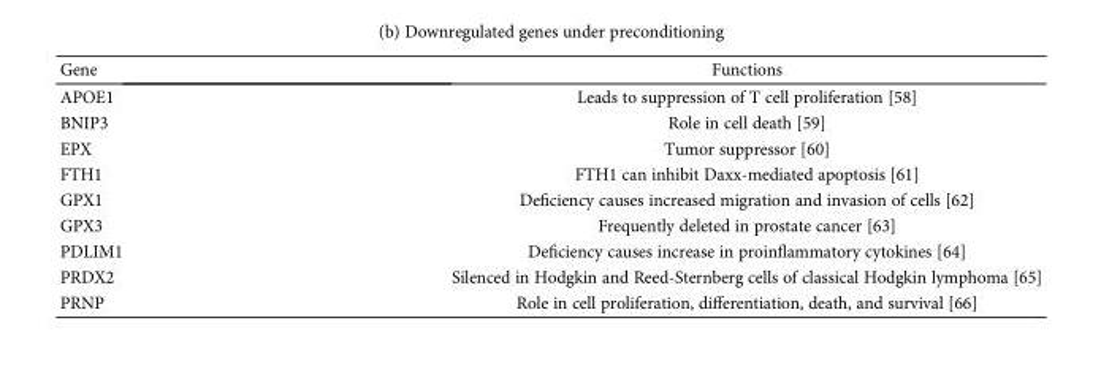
<table><thead><tr><td>Gene</td><td>Functions</td></tr></thead><tbody><tr><td>APOE1</td><td>Leads to suppression of T cell proliferation [58]</td></tr><tr><td>BNIP3</td><td>Role in cell death [59]</td></tr><tr><td>EPX</td><td>Tumor suppressor [60]</td></tr><tr><td>FTH1</td><td>FTH1 can inhibit Daxx-mediated apoptosis [61]</td></tr><tr><td>GPX1</td><td>Deficiency causes increased migration and invasion of cells [62]</td></tr><tr><td>GPX3</td><td>Frequently deleted in prostate cancer [63]</td></tr><tr><td>PDLIM1</td><td>Deficiency causes increase in proinflammatory cytokines [64]</td></tr><tr><td>PRDX2</td><td>Silenced in Hodgkin and Reed-Sternberg cells of classical Hodgkin lymphoma [65]</td></tr><tr><td>PRNP</td><td>Role in cell proliferation, differentiation, death, and survival [66]</td></tr></tbody></table>